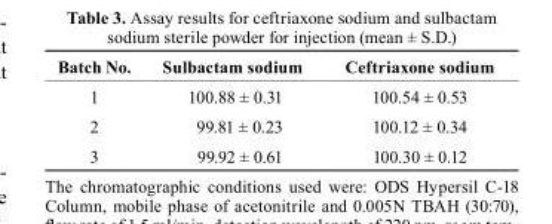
<table><thead><tr><td>batch No.</td><td>sulbactam sodium</td><td>ceftriaxone sodium</td></tr></thead><tbody><tr><td>1</td><td>100.88 ± 0.31</td><td>100.54 ± 0.53</td></tr><tr><td>2</td><td>99.81 ± 0.23</td><td>100.12 ± 0.34</td></tr><tr><td>3</td><td>99.92 ± 0.61</td><td>100.30 ± 0.12</td></tr></tbody></table>